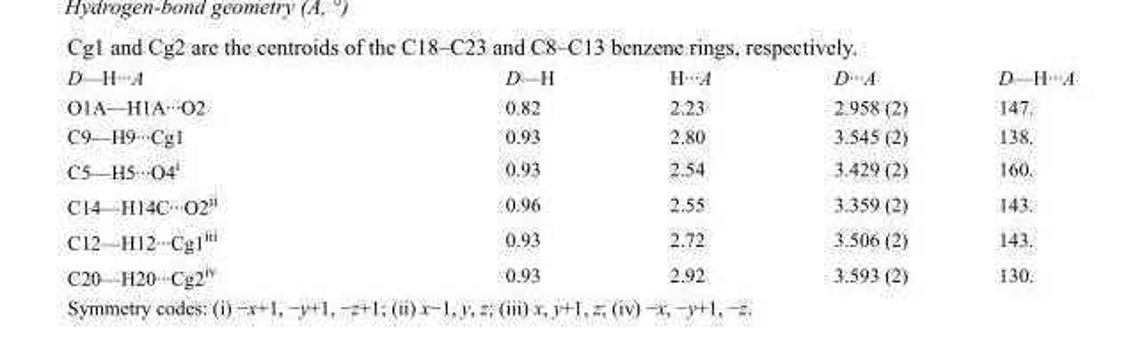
<table><tbody><tr><td>D—H···A</td><td>D—H</td><td>H···A</td><td>D···A</td><td>D—H···A</td></tr><tr><td>O1A—H1A···O2</td><td>0.82</td><td>2.23</td><td>2.958 (2)</td><td>147.</td></tr><tr><td>C9—H9···Cg1</td><td>0.93</td><td>2.80</td><td>3.545 (2)</td><td>138.</td></tr><tr><td>C5—H5···O4<sup>i</sup></td><td>0.93</td><td>2.54</td><td>3.429 (2)</td><td>160.</td></tr><tr><td>C14—H14C···O2<sup>ii</sup></td><td>0.96</td><td>2.55</td><td>3.359 (2)</td><td>143.</td></tr><tr><td>C12—H12···Cg1<sup>iii</sup></td><td>0.93</td><td>2.72</td><td>3.506 (2)</td><td>143.</td></tr><tr><td>C20—H20···Cg2<sup>iv</sup></td><td>0.93</td><td>2.92</td><td>3.593 (2)</td><td>130.</td></tr></tbody></table>